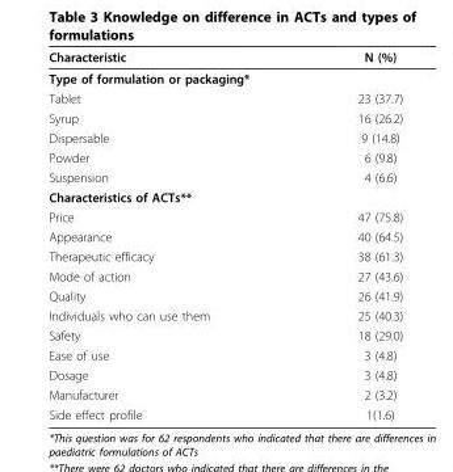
<table><thead><tr><td>Characteristic</td><td>N (%)</td></tr></thead><tbody><tr><td colspan="2">Type of formulation or packaging*</td></tr><tr><td>Tablet</td><td>23 (37.7)</td></tr><tr><td>Syrup</td><td>16 (26.2)</td></tr><tr><td>Dispersable</td><td>9 (14.8)</td></tr><tr><td>Powder</td><td>6 (9.8)</td></tr><tr><td>Suspension</td><td>4 (6.6)</td></tr><tr><td colspan="2">Characteristics of ACTs**</td></tr><tr><td>Price</td><td>47 (75.8)</td></tr><tr><td>Appearance</td><td>40 (64.5)</td></tr><tr><td>Therapeutic efficacy</td><td>38 (61.3)</td></tr><tr><td>Mode of action</td><td>27 (43.6)</td></tr><tr><td>Quality</td><td>26 (41.9)</td></tr><tr><td>Individuals who can use them</td><td>25 (40.3)</td></tr><tr><td>Safety</td><td>18 (29.0)</td></tr><tr><td>Ease of use</td><td>3 (4.8)</td></tr><tr><td>Dosage</td><td>3 (4.8)</td></tr><tr><td>Manufacturer</td><td>2 (3.2)</td></tr><tr><td>Side effect profile</td><td>1(1.6)</td></tr></tbody></table>